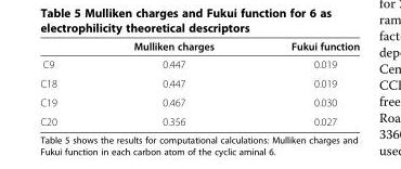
<table><thead><tr><td></td><td>Mulliken charges</td><td>Fukui function</td></tr></thead><tbody><tr><td>C9</td><td>0.447</td><td>0.019</td></tr><tr><td>C18</td><td>0.447</td><td>0.019</td></tr><tr><td>C19</td><td>0.467</td><td>0.030</td></tr><tr><td>C20</td><td>0.356</td><td>0.027</td></tr></tbody></table>